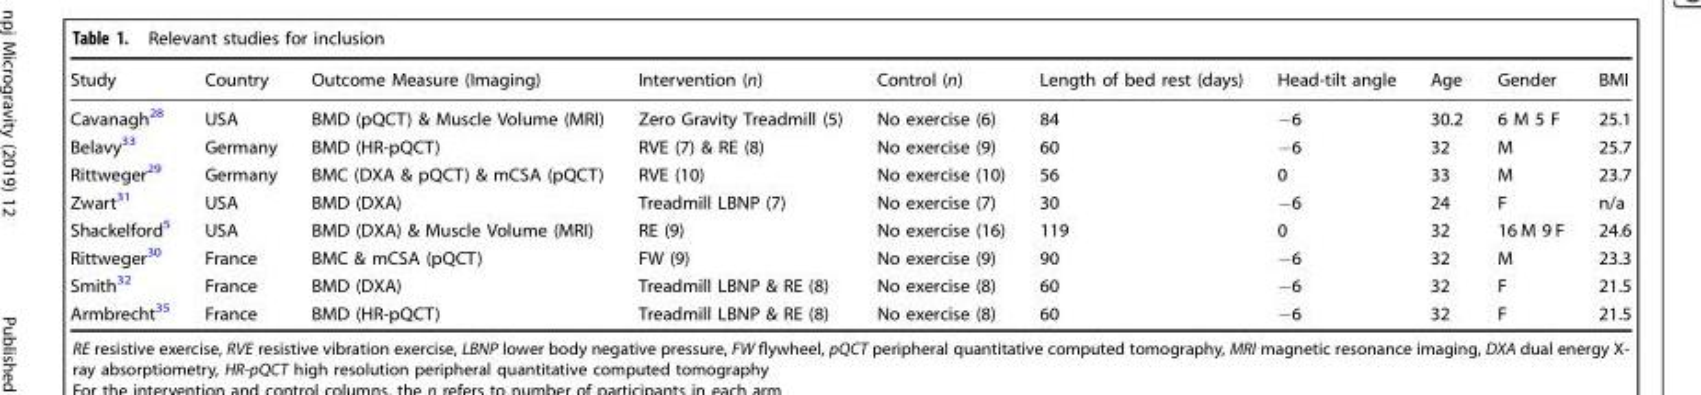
<table><thead><tr><td>Study</td><td>Country</td><td>Outcome Measure (Imaging)</td><td>Intervention (n)</td><td>Control (n)</td><td>Length of bed rest (days)</td><td>Head-tilt angle</td><td>Age</td><td>Gender</td><td>BMI</td></tr></thead><tbody><tr><td>Cavanagh<sup>28</sup></td><td>USA</td><td>BMD (pQCT) &amp; Muscle Volume (MRI)</td><td>Zero Gravity Treadmill (5)</td><td>No exercise (6)</td><td>84</td><td>−6</td><td>30.2</td><td>6 M 5 F</td><td>25.1</td></tr><tr><td>Belavy<sup>33</sup></td><td>Germany</td><td>BMD (HR-pQCT)</td><td>RVE (7) &amp; RE (8)</td><td>No exercise (9)</td><td>60</td><td>−6</td><td>32</td><td>M</td><td>25.7</td></tr><tr><td>Rittweger<sup>29</sup></td><td>Germany</td><td>BMC (DXA &amp; pQCT) &amp; mCSA (pQCT)</td><td>RVE (10)</td><td>No exercise (10)</td><td>56</td><td>0</td><td>33</td><td>M</td><td>23.7</td></tr><tr><td>Zwart<sup>31</sup></td><td>USA</td><td>BMD (DXA)</td><td>Treadmill LBNP (7)</td><td>No exercise (7)</td><td>30</td><td>−6</td><td>24</td><td>F</td><td>n/a</td></tr><tr><td>Shackelford<sup>5</sup></td><td>USA</td><td>BMD (DXA) &amp; Muscle Volume (MRI)</td><td>RE (9)</td><td>No exercise (16)</td><td>119</td><td>0</td><td>32</td><td>16 M 9 F</td><td>24.6</td></tr><tr><td>Rittweger<sup>30</sup></td><td>France</td><td>BMC &amp; mCSA (pQCT)</td><td>FW (9)</td><td>No exercise (9)</td><td>90</td><td>−6</td><td>32</td><td>M</td><td>23.3</td></tr><tr><td>Smith<sup>32</sup></td><td>France</td><td>BMD (DXA)</td><td>Treadmill LBNP &amp; RE (8)</td><td>No exercise (8)</td><td>60</td><td>−6</td><td>32</td><td>F</td><td>21.5</td></tr><tr><td>Armbrecht<sup>35</sup></td><td>France</td><td>BMD (HR-pQCT)</td><td>Treadmill LBNP &amp; RE (8)</td><td>No exercise (8)</td><td>60</td><td>−6</td><td>32</td><td>F</td><td>21.5</td></tr></tbody></table>